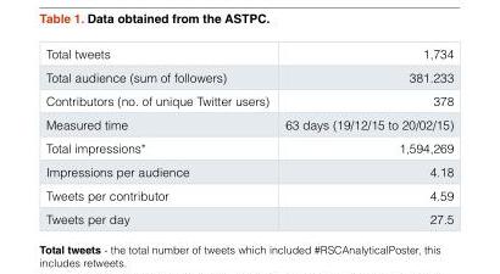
<table><tbody><tr><td>Total tweets</td><td>1,734</td></tr><tr><td>Total audience (sum of followers)</td><td>381.233</td></tr><tr><td>Contributors (no. of unique Twitter users)</td><td>378</td></tr><tr><td>Measured time</td><td>63 days (19/12/15 to 20/02/15)</td></tr><tr><td>Total impressions*</td><td>1,594,269</td></tr><tr><td>Impressions per audience</td><td>4.18</td></tr><tr><td>Tweets per contributor</td><td>4.59</td></tr><tr><td>Tweets per day</td><td>27.5</td></tr></tbody></table>